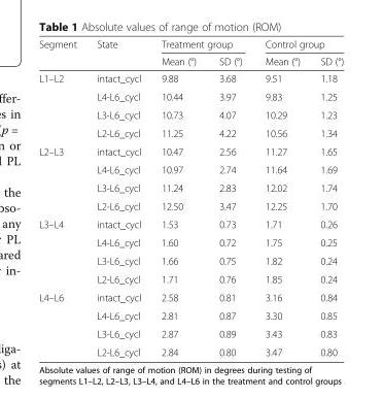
<table><thead><tr><td rowspan="2">Segment</td><td rowspan="2">State</td><td colspan="2">Treatment group</td><td colspan="2">Control group</td></tr><tr><td>Mean (°)</td><td>SD (°)</td><td>Mean (°)</td><td>SD (°)</td></tr></thead><tbody><tr><td rowspan="4">L1–L2</td><td>intact_cycl</td><td>9.88</td><td>3.68</td><td>9.51</td><td>1.18</td></tr><tr><td>L4-L6_cycl</td><td>10.44</td><td>3.97</td><td>9.83</td><td>1.25</td></tr><tr><td>L3-L6_cycl</td><td>10.73</td><td>4.07</td><td>10.29</td><td>1.23</td></tr><tr><td>L2-L6_cycl</td><td>11.25</td><td>4.22</td><td>10.56</td><td>1.34</td></tr><tr><td rowspan="4">L2–L3</td><td>intact_cycl</td><td>10.47</td><td>2.56</td><td>11.27</td><td>1.65</td></tr><tr><td>L4-L6_cycl</td><td>10.97</td><td>2.74</td><td>11.64</td><td>1.69</td></tr><tr><td>L3-L6_cycl</td><td>11.24</td><td>2.83</td><td>12.02</td><td>1.74</td></tr><tr><td>L2-L6_cycl</td><td>12.50</td><td>3.47</td><td>12.25</td><td>1.70</td></tr><tr><td rowspan="4">L3–L4</td><td>intact_cycl</td><td>1.53</td><td>0.73</td><td>1.71</td><td>0.26</td></tr><tr><td>L4-L6_cycl</td><td>1.60</td><td>0.72</td><td>1.75</td><td>0.25</td></tr><tr><td>L3-L6_cycl</td><td>1.66</td><td>0.75</td><td>1.82</td><td>0.24</td></tr><tr><td>L2-L6_cycl</td><td>1.71</td><td>0.76</td><td>1.85</td><td>0.24</td></tr><tr><td rowspan="4">L4–L6</td><td>intact_cycl</td><td>2.58</td><td>0.81</td><td>3.16</td><td>0.84</td></tr><tr><td>L4-L6_cycl</td><td>2.81</td><td>0.87</td><td>3.30</td><td>0.85</td></tr><tr><td>L3-L6_cycl</td><td>2.87</td><td>0.89</td><td>3.43</td><td>0.83</td></tr><tr><td>L2-L6_cycl</td><td>2.84</td><td>0.80</td><td>3.47</td><td>0.80</td></tr></tbody></table>